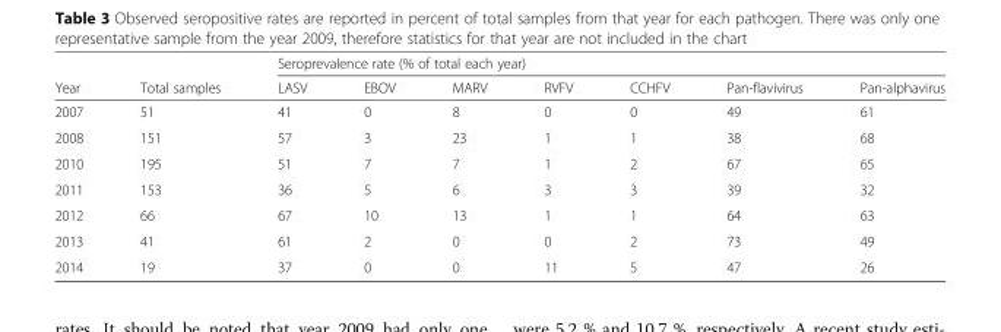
<table><thead><tr><td rowspan="2">Year</td><td rowspan="2">Total samples</td><td colspan="7">Seroprevalence rate (% of total each year)</td></tr><tr><td>LASV</td><td>EBOV</td><td>MARV</td><td>RVFV</td><td>CCHFV</td><td>Pan-flavivirus</td><td>Pan-alphavirus</td></tr></thead><tbody><tr><td>2007</td><td>51</td><td>41</td><td>0</td><td>8</td><td>0</td><td>0</td><td>49</td><td>61</td></tr><tr><td>2008</td><td>151</td><td>57</td><td>3</td><td>23</td><td>1</td><td>1</td><td>38</td><td>68</td></tr><tr><td>2010</td><td>195</td><td>51</td><td>7</td><td>7</td><td>1</td><td>2</td><td>67</td><td>65</td></tr><tr><td>2011</td><td>153</td><td>36</td><td>5</td><td>6</td><td>3</td><td>3</td><td>39</td><td>32</td></tr><tr><td>2012</td><td>66</td><td>67</td><td>10</td><td>13</td><td>1</td><td>1</td><td>64</td><td>63</td></tr><tr><td>2013</td><td>41</td><td>61</td><td>2</td><td>0</td><td>0</td><td>2</td><td>73</td><td>49</td></tr><tr><td>2014</td><td>19</td><td>37</td><td>0</td><td>0</td><td>11</td><td>5</td><td>47</td><td>26</td></tr></tbody></table>